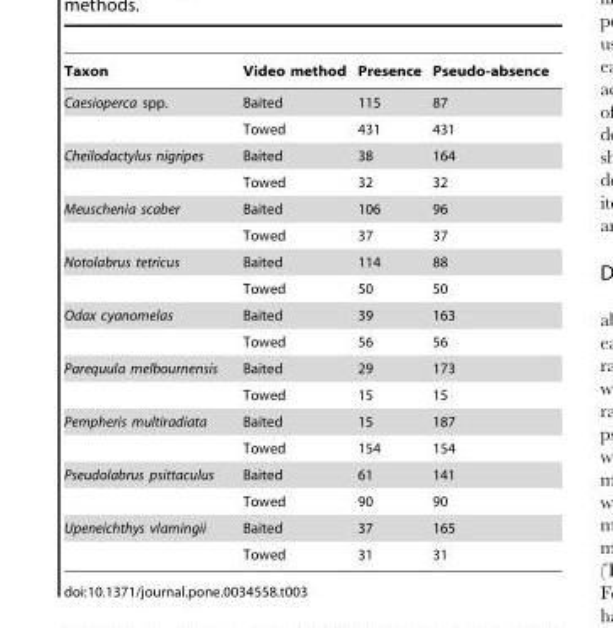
<table><thead><tr><td>Taxon</td><td>Video method</td><td>Presence</td><td>Pseudo-absence</td></tr></thead><tbody><tr><td rowspan="2">Caesioperca spp.</td><td>Baited</td><td>115</td><td>87</td></tr><tr><td>Towed</td><td>431</td><td>431</td></tr><tr><td rowspan="2">Cheilodactylus nigripes</td><td>Baited</td><td>38</td><td>164</td></tr><tr><td>Towed</td><td>32</td><td>32</td></tr><tr><td rowspan="2">Meuschenia scaber</td><td>Baited</td><td>106</td><td>96</td></tr><tr><td>Towed</td><td>37</td><td>37</td></tr><tr><td rowspan="2">Notolabrus tetricus</td><td>Baited</td><td>114</td><td>88</td></tr><tr><td>Towed</td><td>50</td><td>50</td></tr><tr><td rowspan="2">Odax cyanomelas</td><td>Baited</td><td>39</td><td>163</td></tr><tr><td>Towed</td><td>56</td><td>56</td></tr><tr><td rowspan="2">Parequula melbournensis</td><td>Baited</td><td>29</td><td>173</td></tr><tr><td>Towed</td><td>15</td><td>15</td></tr><tr><td rowspan="2">Pempheris multiradiata</td><td>Baited</td><td>15</td><td>187</td></tr><tr><td>Towed</td><td>154</td><td>154</td></tr><tr><td rowspan="2">Pseudolabrus psittaculus</td><td>Baited</td><td>61</td><td>141</td></tr><tr><td>Towed</td><td>90</td><td>90</td></tr><tr><td rowspan="2">Upeneichthys vlamingii</td><td>Baited</td><td>37</td><td>165</td></tr><tr><td>Towed</td><td>31</td><td>31</td></tr></tbody></table>